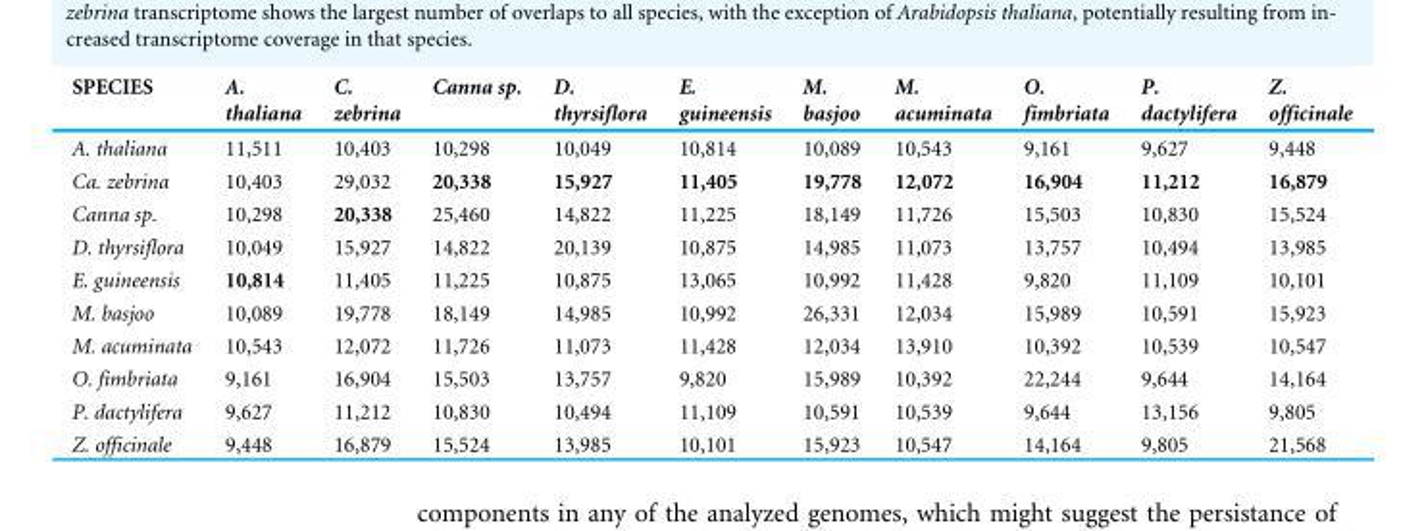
<table><thead><tr><td>SPECIES</td><td>A. thaliana</td><td>C. zebrina</td><td>Canna sp.</td><td>D. thyrsiflora</td><td>E. guineensis</td><td>M. basjoo</td><td>M. acuminata</td><td>O. fimbriata</td><td>P. dactylifera</td><td>Z. officinale</td></tr></thead><tbody><tr><td>A. thaliana</td><td>11,511</td><td>10,403</td><td>10,298</td><td>10,049</td><td>10,814</td><td>10,089</td><td>10,543</td><td>9,161</td><td>9,627</td><td>9,448</td></tr><tr><td>Ca. zebrina</td><td>10,403</td><td>29,032</td><td>20,338</td><td>15,927</td><td>11,405</td><td>19,778</td><td>12,072</td><td>16,904</td><td>11,212</td><td>16,879</td></tr><tr><td>Canna sp.</td><td>10,298</td><td>20,338</td><td>25,460</td><td>14,822</td><td>11,225</td><td>18,149</td><td>11,726</td><td>15,503</td><td>10,830</td><td>15,524</td></tr><tr><td>D. thyrsiflora</td><td>10,049</td><td>15,927</td><td>14,822</td><td>20,139</td><td>10,875</td><td>14,985</td><td>11,073</td><td>13,757</td><td>10,494</td><td>13,985</td></tr><tr><td>E. guineensis</td><td>10,814</td><td>11,405</td><td>11,225</td><td>10,875</td><td>13,065</td><td>10,992</td><td>11,428</td><td>9,820</td><td>11,109</td><td>10,101</td></tr><tr><td>M. basjoo</td><td>10,089</td><td>19,778</td><td>18,149</td><td>14,985</td><td>10,992</td><td>26,331</td><td>12,034</td><td>15,989</td><td>10,591</td><td>15,923</td></tr><tr><td>M. acuminata</td><td>10,543</td><td>12,072</td><td>11,726</td><td>11,073</td><td>11,428</td><td>12,034</td><td>13,910</td><td>10,392</td><td>10,539</td><td>10,547</td></tr><tr><td>O. fimbriata</td><td>9,161</td><td>16,904</td><td>15,503</td><td>13,757</td><td>9,820</td><td>15,989</td><td>10,392</td><td>22,244</td><td>9,644</td><td>14,164</td></tr><tr><td>P. dactylifera</td><td>9,627</td><td>11,212</td><td>10,830</td><td>10,494</td><td>11,109</td><td>10,591</td><td>10,539</td><td>9,644</td><td>13,156</td><td>9,805</td></tr><tr><td>Z. officinale</td><td>9,448</td><td>16,879</td><td>15,524</td><td>13,985</td><td>10,101</td><td>15,923</td><td>10,547</td><td>14,164</td><td>9,805</td><td>21,568</td></tr></tbody></table>